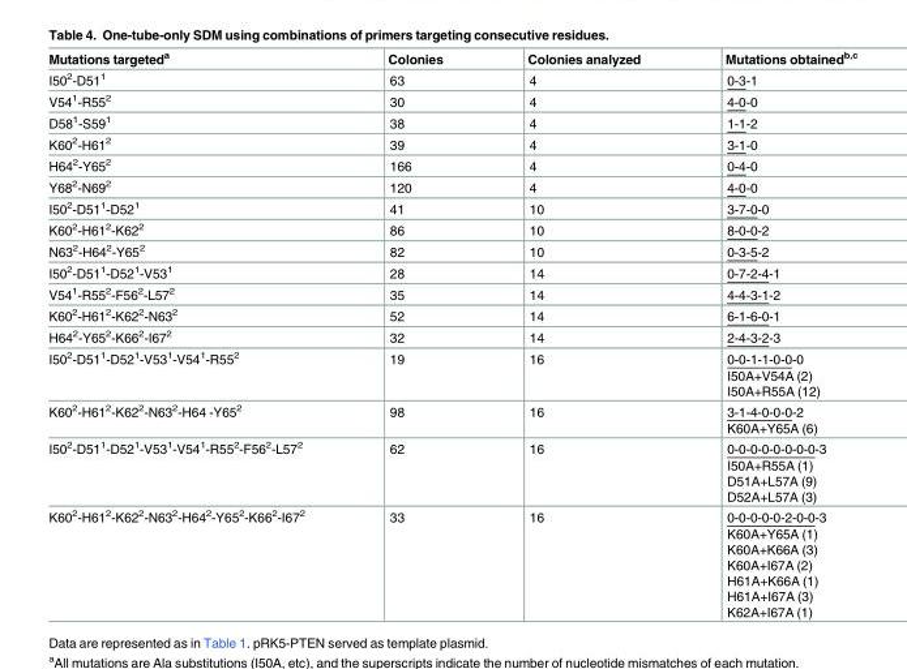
<table><thead><tr><td>Mutations targeted<sup>a</sup></td><td>Colonies</td><td>Colonies analyzed</td><td>Mutations obtained<sup>b,c</sup></td></tr></thead><tbody><tr><td>I50<sup>2</sup>-D51<sup>1</sup></td><td>63</td><td>4</td><td>0-3-1</td></tr><tr><td>V54<sup>1</sup>-R55<sup>2</sup></td><td>30</td><td>4</td><td>4-0-0</td></tr><tr><td>D58<sup>1</sup>-S59<sup>1</sup></td><td>38</td><td>4</td><td>1-1-2</td></tr><tr><td>K60<sup>2</sup>-H61<sup>2</sup></td><td>39</td><td>4</td><td>3-1-0</td></tr><tr><td>H64<sup>2</sup>-Y65<sup>2</sup></td><td>166</td><td>4</td><td>0-4-0</td></tr><tr><td>Y68<sup>2</sup>-N69<sup>2</sup></td><td>120</td><td>4</td><td>4-0-0</td></tr><tr><td>I50<sup>2</sup>-D51<sup>1</sup>-D52<sup>1</sup></td><td>41</td><td>10</td><td>3-7-0-0</td></tr><tr><td>K60<sup>2</sup>-H61<sup>2</sup>-K62<sup>2</sup></td><td>86</td><td>10</td><td>8-0-0-2</td></tr><tr><td>N63<sup>2</sup>-H64<sup>2</sup>-Y65<sup>2</sup></td><td>82</td><td>10</td><td>0-3-5-2</td></tr><tr><td>I50<sup>2</sup>-D51<sup>1</sup>-D52<sup>1</sup>-V53<sup>1</sup></td><td>28</td><td>14</td><td>0-7-2-4-1</td></tr><tr><td>V54<sup>1</sup>-R55<sup>2</sup>-F56<sup>2</sup>-L57<sup>2</sup></td><td>35</td><td>14</td><td>4-4-3-1-2</td></tr><tr><td>K60<sup>2</sup>-H61<sup>2</sup>-K62<sup>2</sup>-N63<sup>2</sup></td><td>52</td><td>14</td><td>6-1-6-0-1</td></tr><tr><td>H64<sup>2</sup>-Y65<sup>2</sup>-K66<sup>2</sup>-I67<sup>2</sup></td><td>32</td><td>14</td><td>2-4-3-2-3</td></tr><tr><td>I50<sup>2</sup>-D51<sup>1</sup>-D52<sup>1</sup>-V53<sup>1</sup>-V54<sup>1</sup>-R55<sup>2</sup></td><td>19</td><td>16</td><td>0-0-1-1-0-0-0 I50A+V54A (2) I50A+R55A (12)</td></tr><tr><td>K60<sup>2</sup>-H61<sup>2</sup>-K62<sup>2</sup>-N63<sup>2</sup>-H64 -Y65<sup>2</sup></td><td>98</td><td>16</td><td>3-1-4-0-0-0-2 K60A+Y65A (6)</td></tr><tr><td>I50<sup>2</sup>-D51<sup>1</sup>-D52<sup>1</sup>-V53<sup>1</sup>-V54<sup>1</sup>-R55<sup>2</sup>-F56<sup>2</sup>-L57<sup>2</sup></td><td>62</td><td>16</td><td>0-0-0-0-0-0-0-0-3 I50A+R55A (1) D51A+L57A (9) D52A+L57A (3)</td></tr><tr><td>K60<sup>2</sup>-H61<sup>2</sup>-K62<sup>2</sup>-N63<sup>2</sup>-H64<sup>2</sup>-Y65<sup>2</sup>-K66<sup>2</sup>-I67<sup>2</sup></td><td>33</td><td>16</td><td>0-0-0-0-0-2-0-0-3 K60A+Y65A (1) K60A+K66A (3) K60A+I67A (2) H61A+K66A (1) H61A+I67A (3) K62A+I67A (1)</td></tr></tbody></table>